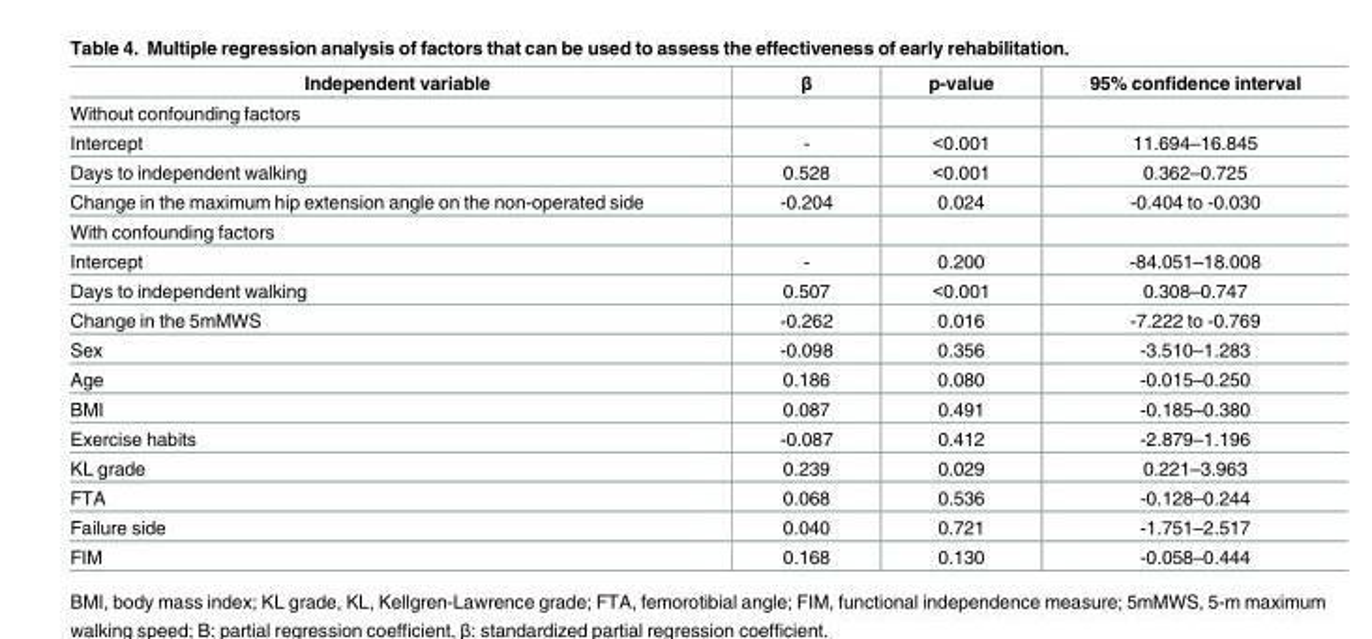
<table><thead><tr><td>Independent variable</td><td>β</td><td>p-value</td><td>95% confidence interval</td></tr></thead><tbody><tr><td colspan="4">Without confounding factors</td></tr><tr><td>Intercept</td><td>-</td><td>&lt;0.001</td><td>11.694–16.845</td></tr><tr><td>Days to independent walking</td><td>0.528</td><td>&lt;0.001</td><td>0.362–0.725</td></tr><tr><td>Change in the maximum hip extension angle on the non-operated side</td><td>-0.204</td><td>0.024</td><td>-0.404 to -0.030</td></tr><tr><td colspan="4">With confounding factors</td></tr><tr><td>Intercept</td><td>-</td><td>0.200</td><td>-84.051–18.008</td></tr><tr><td>Days to independent walking</td><td>0.507</td><td>&lt;0.001</td><td>0.308–0.747</td></tr><tr><td>Change in the 5mMWS</td><td>-0.262</td><td>0.016</td><td>-7.222 to -0.769</td></tr><tr><td>Sex</td><td>-0.098</td><td>0.356</td><td>-3.510–1.283</td></tr><tr><td>Age</td><td>0.186</td><td>0.080</td><td>-0.015–0.250</td></tr><tr><td>BMI</td><td>0.087</td><td>0.491</td><td>-0.185–0.380</td></tr><tr><td>Exercise habits</td><td>-0.087</td><td>0.412</td><td>-2.879–1.196</td></tr><tr><td>KL grade</td><td>0.239</td><td>0.029</td><td>0.221–3.963</td></tr><tr><td>FTA</td><td>0.068</td><td>0.536</td><td>-0.128–0.244</td></tr><tr><td>Failure side</td><td>0.040</td><td>0.721</td><td>-1.751–2.517</td></tr><tr><td>FIM</td><td>0.168</td><td>0.130</td><td>-0.058–0.444</td></tr></tbody></table>